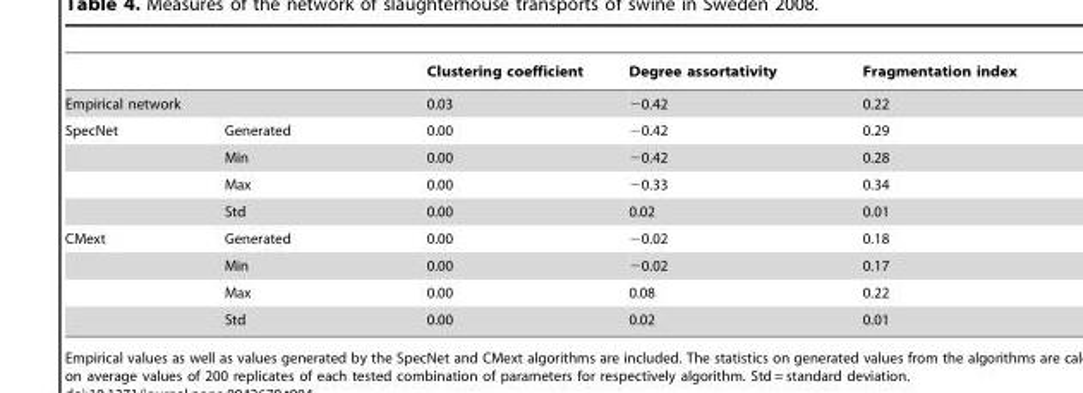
<table><thead><tr><td></td><td></td><td>Clustering coefficient</td><td>Degree assortativity</td><td>Fragmentation index</td></tr></thead><tbody><tr><td colspan="2">Empirical network</td><td>0.03</td><td>−0.42</td><td>0.22</td></tr><tr><td rowspan="4">SpecNet</td><td>Generated</td><td>0.00</td><td>−0.42</td><td>0.29</td></tr><tr><td>Min</td><td>0.00</td><td>−0.42</td><td>0.28</td></tr><tr><td>Max</td><td>0.00</td><td>−0.33</td><td>0.34</td></tr><tr><td>Std</td><td>0.00</td><td>0.02</td><td>0.01</td></tr><tr><td rowspan="4">CMext</td><td>Generated</td><td>0.00</td><td>−0.02</td><td>0.18</td></tr><tr><td>Min</td><td>0.00</td><td>−0.02</td><td>0.17</td></tr><tr><td>Max</td><td>0.00</td><td>0.08</td><td>0.22</td></tr><tr><td>Std</td><td>0.00</td><td>0.02</td><td>0.01</td></tr></tbody></table>